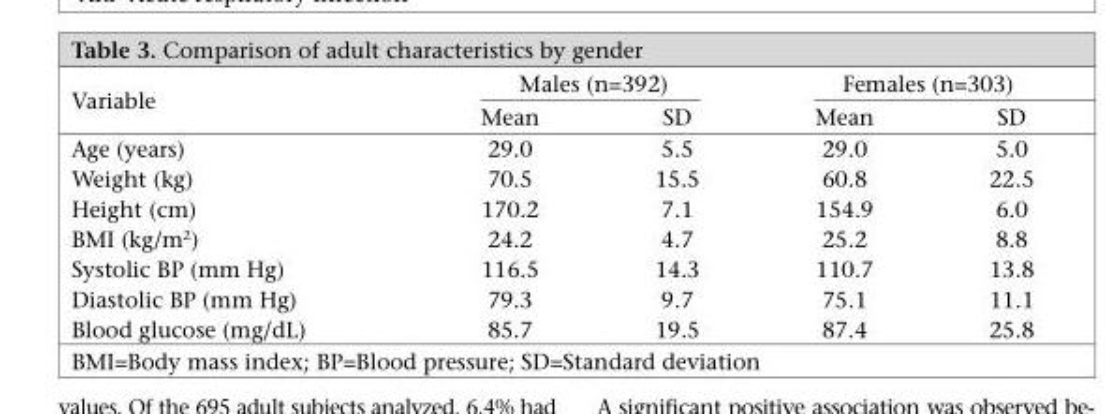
<table><thead><tr><td rowspan="2">Variable</td><td colspan="2">Males (n=392)</td><td colspan="2">Females (n=303)</td></tr><tr><td>Mean</td><td>SD</td><td>Mean</td><td>SD</td></tr></thead><tbody><tr><td>Age (years)</td><td>29.0</td><td>5.5</td><td>29.0</td><td>5.0</td></tr><tr><td>Weight (kg)</td><td>70.5</td><td>15.5</td><td>60.8</td><td>22.5</td></tr><tr><td>Height (cm)</td><td>170.2</td><td>7.1</td><td>154.9</td><td>6.0</td></tr><tr><td>BMI (kg/m<sup>2</sup>)</td><td>24.2</td><td>4.7</td><td>25.2</td><td>8.8</td></tr><tr><td>Systolic BP (mm Hg)</td><td>116.5</td><td>14.3</td><td>110.7</td><td>13.8</td></tr><tr><td>Diastolic BP (mm Hg)</td><td>79.3</td><td>9.7</td><td>75.1</td><td>11.1</td></tr><tr><td>Blood glucose (mg/dL)</td><td>85.7</td><td>19.5</td><td>87.4</td><td>25.8</td></tr></tbody></table>